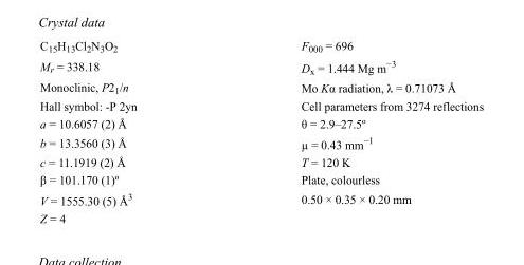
<table><tbody><tr><td>C<sub>15</sub>H<sub>13</sub>Cl<sub>2</sub>N<sub>3</sub>O<sub>2</sub></td><td>F000 = 696</td></tr><tr><td>M<sub>r</sub> = 338.18</td><td>D<sub>x</sub> = 1.444 Mg m<sup>−3</sup></td></tr><tr><td>Monoclinic, P2<sub>1</sub>/n</td><td>Mo Kα radiation, λ = 0.71073 Å</td></tr><tr><td>Hall symbol: -P 2yn</td><td>Cell parameters from 3274 reflections</td></tr><tr><td>a = 10.6057 (2) Å</td><td>θ = 2.9–27.5º</td></tr><tr><td>b = 13.3560 (3) Å</td><td>µ = 0.43 mm<sup>−1</sup></td></tr><tr><td>c = 11.1919 (2) Å</td><td>T = 120 K</td></tr><tr><td>β = 101.170 (1)º</td><td>Plate, colourless</td></tr><tr><td>V = 1555.30 (5) Å<sup>3</sup></td><td>0.50 × 0.35 × 0.20 mm</td></tr><tr><td>Z = 4</td><td></td></tr></tbody></table>